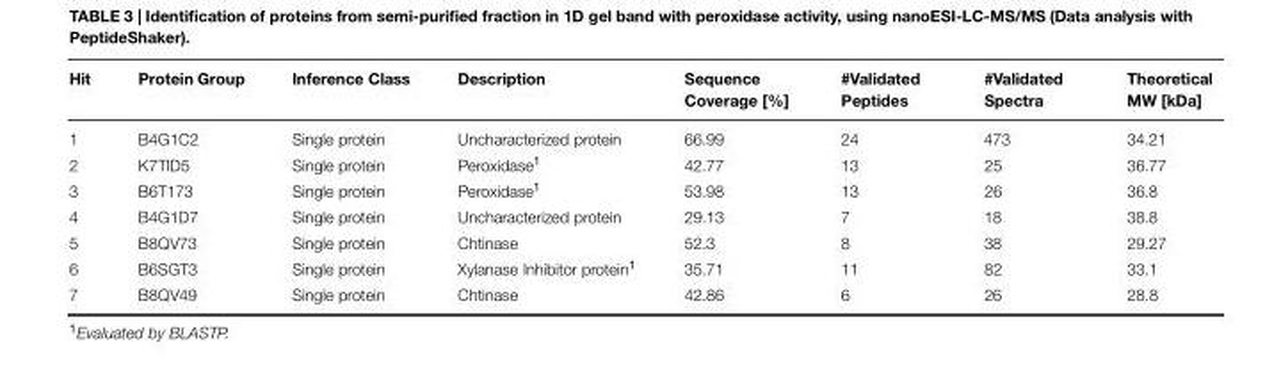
<table><thead><tr><td>Hit</td><td>Protein Group</td><td>Inference Class</td><td>Description</td><td>Sequence Coverage [%]</td><td>#Validated Peptides</td><td>#Validated Spectra</td><td>Theoretical MW [kDa]</td></tr></thead><tbody><tr><td>1</td><td>B4G1C2</td><td>Single protein</td><td>Uncharacterized protein</td><td>66.99</td><td>24</td><td>473</td><td>34.21</td></tr><tr><td>2</td><td>K7TID5</td><td>Single protein</td><td>Peroxidase<sup>1</sup></td><td>42.77</td><td>13</td><td>25</td><td>36.77</td></tr><tr><td>3</td><td>B6T173</td><td>Single protein</td><td>Peroxidase<sup>1</sup></td><td>53.98</td><td>13</td><td>26</td><td>36.8</td></tr><tr><td>4</td><td>B4G1D7</td><td>Single protein</td><td>Uncharacterized protein</td><td>29.13</td><td>7</td><td>18</td><td>38.8</td></tr><tr><td>5</td><td>B8QV73</td><td>Single protein</td><td>Chtinase</td><td>52.3</td><td>8</td><td>38</td><td>29.27</td></tr><tr><td>6</td><td>B6SGT3</td><td>Single protein</td><td>Xylanase Inhibitor protein<sup>1</sup></td><td>35.71</td><td>11</td><td>82</td><td>33.1</td></tr><tr><td>7</td><td>B8QV49</td><td>Single protein</td><td>Chtinase</td><td>42.86</td><td>6</td><td>26</td><td>28.8</td></tr></tbody></table>